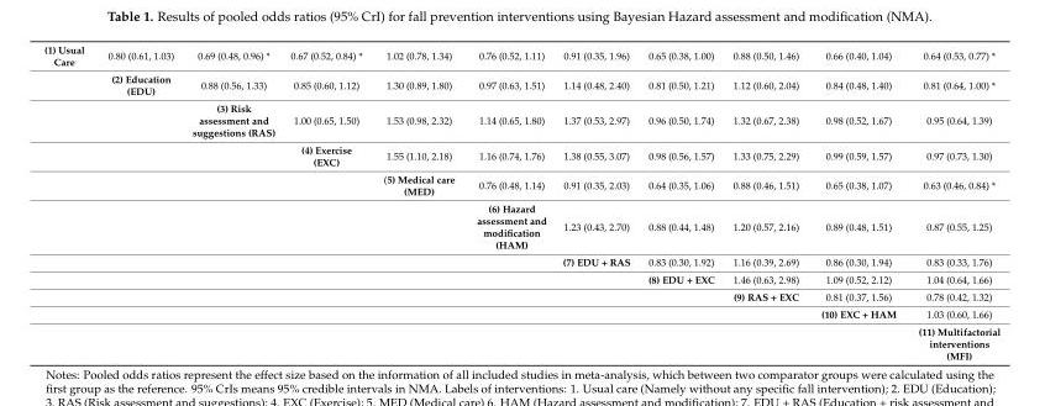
<table><tbody><tr><td rowspan="11">(1) Usual Care</td><td>0.80 (0.61, 1.03)</td><td>0.69 (0.48, 0.96) *</td><td>0.67 (0.52, 0.84) *</td><td>1.02 (0.78, 1.34)</td><td>0.76 (0.52, 1.11)</td><td>0.91 (0.35, 1.96)</td><td>0.65 (0.38, 1.00)</td><td>0.88 (0.50, 1.46)</td><td>0.66 (0.40, 1.04)</td><td>0.64 (0.53, 0.77) *</td></tr><tr><td>(2) Education (EDU)</td><td>0.88 (0.56, 1.33)</td><td>0.85 (0.60, 1.12)</td><td>1.30 (0.89, 1.80)</td><td>0.97 (0.63, 1.51)</td><td>1.14 (0.48, 2.40)</td><td>0.81 (0.50, 1.21)</td><td>1.12 (0.60, 2.04)</td><td>0.84 (0.48, 1.40)</td><td>0.81 (0.64, 1.00) *</td></tr><tr><td></td><td>(3) Risk assessment and suggestions (RAS)</td><td>1.00 (0.65, 1.50)</td><td>1.53 (0.98, 2.32)</td><td>1.14 (0.65, 1.80)</td><td>1.37 (0.53, 2.97)</td><td>0.96 (0.50, 1.74)</td><td>1.32 (0.67, 2.38)</td><td>0.98 (0.52, 1.67)</td><td>0.95 (0.64, 1.39)</td></tr><tr><td></td><td></td><td>(4) Exercise (EXC)</td><td>1.55 (1.10, 2.18)</td><td>1.16 (0.74, 1.76)</td><td>1.38 (0.55, 3.07)</td><td>0.98 (0.56, 1.57)</td><td>1.33 (0.75, 2.29)</td><td>0.99 (0.59, 1.57)</td><td>0.97 (0.73, 1.30)</td></tr><tr><td></td><td></td><td></td><td>(5) Medical care (MED)</td><td>0.76 (0.48, 1.14)</td><td>0.91 (0.35, 2.03)</td><td>0.64 (0.35, 1.06)</td><td>0.88 (0.46, 1.51)</td><td>0.65 (0.38, 1.07)</td><td>0.63 (0.46, 0.84) *</td></tr><tr><td></td><td></td><td></td><td></td><td>(6) Hazard assessment and modification (HAM)</td><td>1.23 (0.43, 2.70)</td><td>0.88 (0.44, 1.48)</td><td>1.20 (0.57, 2.16)</td><td>0.89 (0.48, 1.51)</td><td>0.87 (0.55, 1.25)</td></tr><tr><td></td><td></td><td></td><td></td><td></td><td>(7) EDU + RAS</td><td>0.83 (0.30, 1.92)</td><td>1.16 (0.39, 2.69)</td><td>0.86 (0.30, 1.94)</td><td>0.83 (0.33, 1.76)</td></tr><tr><td></td><td></td><td></td><td></td><td></td><td></td><td>(8) EDU + EXC</td><td>1.46 (0.63, 2.98)</td><td>1.09 (0.52, 2.12)</td><td>1.04 (0.64, 1.66)</td></tr><tr><td></td><td></td><td></td><td></td><td></td><td></td><td></td><td>(9) RAS + EXC</td><td>0.81 (0.37, 1.56)</td><td>0.78 (0.42, 1.32)</td></tr><tr><td></td><td></td><td></td><td></td><td></td><td></td><td></td><td></td><td>(10) EXC + HAM</td><td>1.03 (0.60, 1.66)</td></tr><tr><td></td><td></td><td></td><td></td><td></td><td></td><td></td><td></td><td></td><td>(11) Multifactorial interventions (MFI)</td></tr></tbody></table>